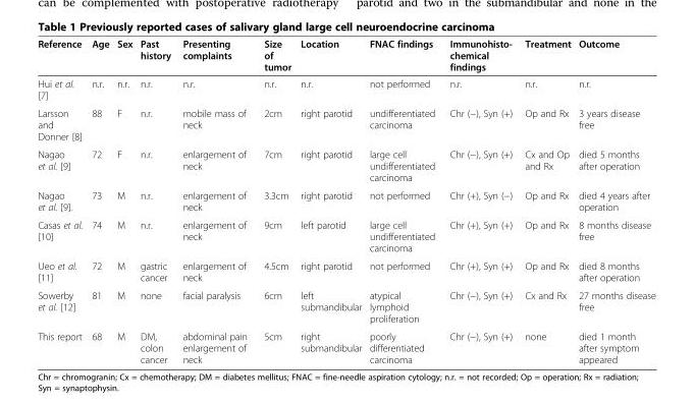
<table><thead><tr><td>Reference</td><td>Age</td><td>Sex</td><td>Past history</td><td>Presenting complaints</td><td>Size of tumor</td><td>Location</td><td>FNAC findings</td><td>Immunohisto- chemical findings</td><td>Treatment</td><td>Outcome</td></tr></thead><tbody><tr><td>Hui et al. [7]</td><td>n.r.</td><td>n.r.</td><td>n.r.</td><td>n.r.</td><td>n.r.</td><td>n.r.</td><td>not performed</td><td>n.r.</td><td>n.r.</td><td>n.r.</td></tr><tr><td>Larsson and Donner [8]</td><td>88</td><td>F</td><td>n.r.</td><td>mobile mass of neck</td><td>2cm</td><td>right parotid</td><td>undifferentiated carcinoma</td><td>Chr (−), Syn (+)</td><td>Op and Rx</td><td>3 years disease free</td></tr><tr><td>Nagao et al. [9]</td><td>72</td><td>F</td><td>n.r.</td><td>enlargement of neck</td><td>7cm</td><td>right parotid</td><td>large cell undifferentiated carcinoma</td><td>Chr (−), Syn (+)</td><td>Cx and Op and Rx</td><td>died 5 months after operation</td></tr><tr><td>Nagao et al. [9].</td><td>73</td><td>M</td><td>n.r.</td><td>enlargement of neck</td><td>3.3cm</td><td>right parotid</td><td>not performed</td><td>Chr (+), Syn (−)</td><td>Op and Rx</td><td>died 4 years after operation</td></tr><tr><td>Casas et al. [10]</td><td>74</td><td>M</td><td>n.r.</td><td>enlargement of neck</td><td>9cm</td><td>left parotid</td><td>large cell undifferentiated carcinoma</td><td>Chr (+), Syn (+)</td><td>Op and Rx</td><td>8 months disease free</td></tr><tr><td>Ueo et al. [11]</td><td>72</td><td>M</td><td>gastric cancer</td><td>enlargement of neck</td><td>4.5cm</td><td>right parotid</td><td>not performed</td><td>Chr (+), Syn (+)</td><td>Op and Rx</td><td>died 8 months after operation</td></tr><tr><td>Sowerby et al. [12]</td><td>81</td><td>M</td><td>none</td><td>facial paralysis</td><td>6cm</td><td>left submandibular</td><td>atypical lymphoid proliferation</td><td>Chr (−), Syn (+)</td><td>Cx and Rx</td><td>27 months disease free</td></tr><tr><td>This report</td><td>68</td><td>M</td><td>DM, colon cancer</td><td>abdominal pain enlargement of neck</td><td>5cm</td><td>right submandibular</td><td>poorly differentiated carcinoma</td><td>Chr (−), Syn (+)</td><td>none</td><td>died 1 month after symptom appeared</td></tr></tbody></table>